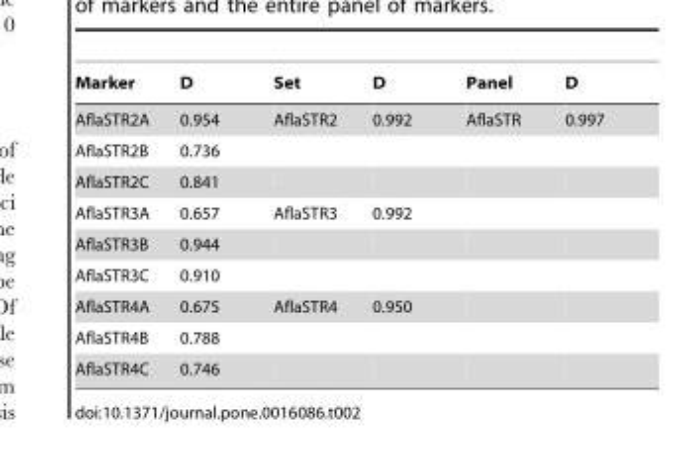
<table><thead><tr><td>Marker</td><td>D</td><td>Set</td><td>D</td><td>Panel</td><td>D</td></tr></thead><tbody><tr><td>AflaSTR2A</td><td>0.954</td><td>AflaSTR2</td><td>0.992</td><td>AflaSTR</td><td>0.997</td></tr><tr><td>AflaSTR2B</td><td>0.736</td><td></td><td></td><td></td><td></td></tr><tr><td>AflaSTR2C</td><td>0.841</td><td></td><td></td><td></td><td></td></tr><tr><td>AflaSTR3A</td><td>0.657</td><td>AflaSTR3</td><td>0.992</td><td></td><td></td></tr><tr><td>AflaSTR3B</td><td>0.944</td><td></td><td></td><td></td><td></td></tr><tr><td>AflaSTR3C</td><td>0.910</td><td></td><td></td><td></td><td></td></tr><tr><td>AflaSTR4A</td><td>0.675</td><td>AflaSTR4</td><td>0.950</td><td></td><td></td></tr><tr><td>AflaSTR4B</td><td>0.788</td><td></td><td></td><td></td><td></td></tr><tr><td>AflaSTR4C</td><td>0.746</td><td></td><td></td><td></td><td></td></tr></tbody></table>